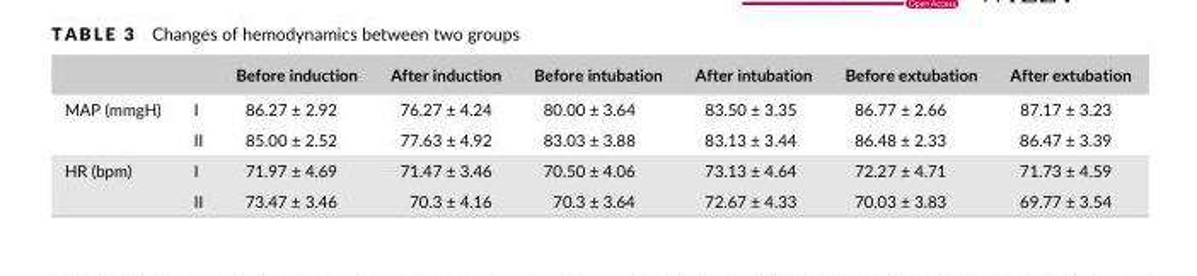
<table><thead><tr><td></td><td></td><td>Before induction</td><td>After induction</td><td>Before intubation</td><td>After intubation</td><td>Before extubation</td><td>After extubation</td></tr></thead><tbody><tr><td rowspan="2">MAP (mmgH)</td><td>I</td><td>86.27 ± 2.92</td><td>76.27 ± 4.24</td><td>80.00 ± 3.64</td><td>83.50 ± 3.35</td><td>86.77 ± 2.66</td><td>87.17 ± 3.23</td></tr><tr><td>II</td><td>85.00 ± 2.52</td><td>77.63 ± 4.92</td><td>83.03 ± 3.88</td><td>83.13 ± 3.44</td><td>86.48 ± 2.33</td><td>86.47 ± 3.39</td></tr><tr><td rowspan="2">HR (bpm)</td><td>I</td><td>71.97 ± 4.69</td><td>71.47 ± 3.46</td><td>70.50 ± 4.06</td><td>73.13 ± 4.64</td><td>72.27 ± 4.71</td><td>71.73 ± 4.59</td></tr><tr><td>II</td><td>73.47 ± 3.46</td><td>70.3 ± 4.16</td><td>70.3 ± 3.64</td><td>72.67 ± 4.33</td><td>70.03 ± 3.83</td><td>69.77 ± 3.54</td></tr></tbody></table>